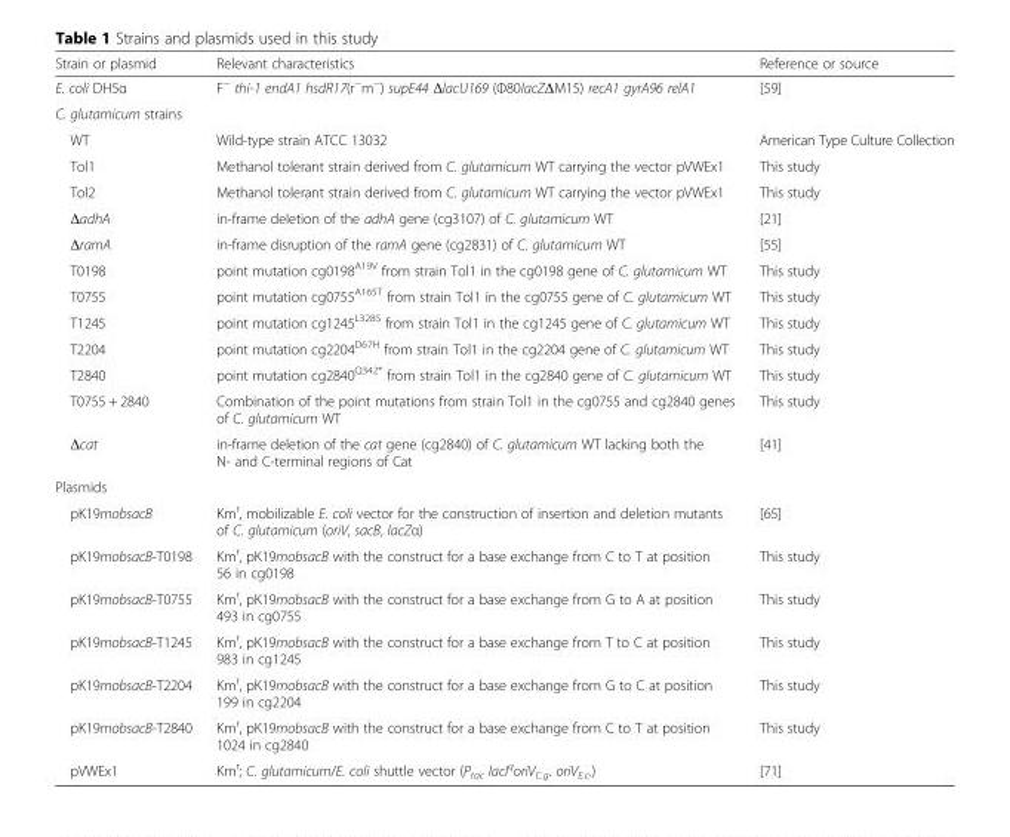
<table><thead><tr><td>Strain or plasmid</td><td>Relevant characteristics</td><td>Reference or source</td></tr></thead><tbody><tr><td>E. coli DH5α</td><td>F<sup>−</sup> thi-1 endA1 hsdR17(r<sup>−</sup>m<sup>−</sup>) supE44 ΔlacU169 (Φ80lacZΔM15) recA1 gyrA96 relA1</td><td>[59]</td></tr><tr><td colspan="3">C. glutamicum strains</td></tr><tr><td>WT</td><td>Wild-type strain ATCC 13032</td><td>American Type Culture Collection</td></tr><tr><td>Tol1</td><td>Methanol tolerant strain derived from C. glutamicum WT carrying the vector pVWEx1</td><td>This study</td></tr><tr><td>Tol2</td><td>Methanol tolerant strain derived from C. glutamicum WT carrying the vector pVWEx1</td><td>This study</td></tr><tr><td>ΔadhA</td><td>in-frame deletion of the adhA gene (cg3107) of C. glutamicum WT</td><td>[21]</td></tr><tr><td>ΔramA</td><td>in-frame disruption of the ramA gene (cg2831) of C. glutamicum WT</td><td>[55]</td></tr><tr><td>T0198</td><td>point mutation cg0198<sup>A19V</sup> from strain Tol1 in the cg0198 gene of C. glutamicum WT</td><td>This study</td></tr><tr><td>T0755</td><td>point mutation cg0755<sup>A165T</sup> from strain Tol1 in the cg0755 gene of C. glutamicum WT</td><td>This study</td></tr><tr><td>T1245</td><td>point mutation cg1245<sup>L328S</sup> from strain Tol1 in the cg1245 gene of C. glutamicum WT</td><td>This study</td></tr><tr><td>T2204</td><td>point mutation cg2204<sup>D67H</sup> from strain Tol1 in the cg2204 gene of C. glutamicum WT</td><td>This study</td></tr><tr><td>T2840</td><td>point mutation cg2840<sup>Q342*</sup> from strain Tol1 in the cg2840 gene of C. glutamicum WT</td><td>This study</td></tr><tr><td>T0755 + 2840</td><td>Combination of the point mutations from strain Tol1 in the cg0755 and cg2840 genes of C. glutamicum WT</td><td>This study</td></tr><tr><td>Δcat</td><td>in-frame deletion of the cat gene (cg2840) of C. glutamicum WT lacking both the N- and C-terminal regions of Cat</td><td>[41]</td></tr><tr><td colspan="3">Plasmids</td></tr><tr><td>pK19mobsacB</td><td>Km<sup>r</sup>, mobilizable E. coli vector for the construction of insertion and deletion mutants of C. glutamicum (oriV, sacB, lacZα)</td><td>[65]</td></tr><tr><td>pK19mobsacB-T0198</td><td>Km<sup>r</sup>, pK19mobsacB with the construct for a base exchange from C to T at position 56 in cg0198</td><td>This study</td></tr><tr><td>pK19mobsacB-T0755</td><td>Km<sup>r</sup>, pK19mobsacB with the construct for a base exchange from G to A at position 493 in cg0755</td><td>This study</td></tr><tr><td>pK19mobsacB-T1245</td><td>Km<sup>r</sup>, pK19mobsacB with the construct for a base exchange from T to C at position 983 in cg1245</td><td>This study</td></tr><tr><td>pK19mobsacB-T2204</td><td>Km<sup>r</sup>, pK19mobsacB with the construct for a base exchange from G to C at position 199 in cg2204</td><td>This study</td></tr><tr><td>pK19mobsacB-T2840</td><td>Km<sup>r</sup>, pK19mobsacB with the construct for a base exchange from C to T at position 1024 in cg2840</td><td>This study</td></tr><tr><td>pVWEx1</td><td>Km<sup>r</sup>; C. glutamicum/E. coli shuttle vector (P<sub>tac</sub> lacI<sup>q</sup>oriV<sub>C.g</sub>. oriV<sub>E.c</sub>.)</td><td>[71]</td></tr></tbody></table>